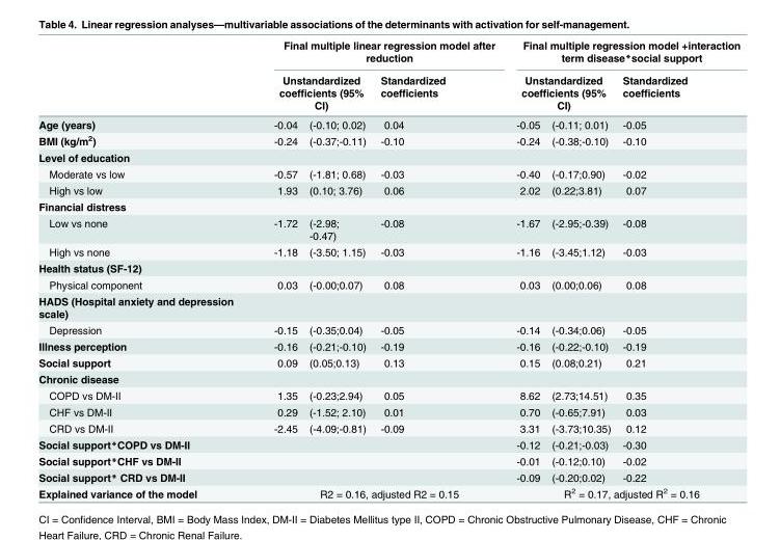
<table><thead><tr><td rowspan="3">Age (years)</td><td colspan="3">Final multiple linear regression model after reduction</td><td colspan="3">Final multiple regression model +interaction term disease*social support</td></tr><tr><td colspan="2">Unstandardized coefficients (95% CI)</td><td rowspan="2">Standardized coefficients 0.04</td><td colspan="2">Unstandardized coefficients (95% CI)</td><td rowspan="2">Standardized coefficients -0.05</td></tr><tr><td>-0.04</td><td>(-0.10; 0.02)</td><td>-0.05</td><td>(-0.11; 0.01)</td></tr></thead><tbody><tr><td>BMI (kg/m<sup>2</sup>)</td><td>-0.24</td><td>(-0.37;-0.11)</td><td>-0.10</td><td>-0.24</td><td>(-0.38;-0.10)</td><td>-0.10</td></tr><tr><td colspan="7">Level of education</td></tr><tr><td>Moderate vs low</td><td>-0.57</td><td>(-1.81; 0.68)</td><td>-0.03</td><td>-0.40</td><td>(-0.17;0.90)</td><td>-0.02</td></tr><tr><td>High vs low</td><td>1.93</td><td>(0.10; 3.76)</td><td>0.06</td><td>2.02</td><td>(0.22;3.81)</td><td>0.07</td></tr><tr><td colspan="7">Financial distress</td></tr><tr><td>Low vs none</td><td>-1.72</td><td>(-2.98; -0.47)</td><td>-0.08</td><td>-1.67</td><td>(-2.95;-0.39)</td><td>-0.08</td></tr><tr><td>High vs none</td><td>-1.18</td><td>(-3.50; 1.15)</td><td>-0.03</td><td>-1.16</td><td>(-3.45;1.12)</td><td>-0.03</td></tr><tr><td colspan="7">Health status (SF-12)</td></tr><tr><td>Physical component</td><td>0.03</td><td>(-0.00;0.07)</td><td>0.08</td><td>0.03</td><td>(0.00;0.06)</td><td>0.08</td></tr><tr><td colspan="7">HADS (Hospital anxiety and depression scale)</td></tr><tr><td>Depression</td><td>-0.15</td><td>(-0.35;0.04)</td><td>-0.05</td><td>-0.14</td><td>(-0.34;0.06)</td><td>-0.05</td></tr><tr><td>Illness perception</td><td>-0.16</td><td>(-0.21;-0.10)</td><td>-0.19</td><td>-0.16</td><td>(-0.22;-0.10)</td><td>-0.19</td></tr><tr><td>Social support</td><td>0.09</td><td>(0.05;0.13)</td><td>0.13</td><td>0.15</td><td>(0.08;0.21)</td><td>0.21</td></tr><tr><td colspan="7">Chronic disease</td></tr><tr><td>COPD vs DM-II</td><td>1.35</td><td>(-0.23;2.94)</td><td>0.05</td><td>8.62</td><td>(2.73;14.51)</td><td>0.35</td></tr><tr><td>CHF vs DM-II</td><td>0.29</td><td>(-1.52; 2.10)</td><td>0.01</td><td>0.70</td><td>(-0.65;7.91)</td><td>0.03</td></tr><tr><td>CRD vs DM-II</td><td>-2.45</td><td>(-4.09;-0.81)</td><td>-0.09</td><td>3.31</td><td>(-3.73;10.35)</td><td>0.12</td></tr><tr><td>Social support*COPD vs DM-II</td><td></td><td></td><td></td><td>-0.12</td><td>(-0.21;-0.03)</td><td>-0.30</td></tr><tr><td>Social support*CHF vs DM-II</td><td></td><td></td><td></td><td>-0.01</td><td>(-0.12;0.10)</td><td>-0.02</td></tr><tr><td>Social support* CRD vs DM-II</td><td></td><td></td><td></td><td>-0.09</td><td>(-0.20;0.02)</td><td>-0.22</td></tr><tr><td>Explained variance of the model</td><td colspan="3">R2 = 0.16, adjusted R2 = 0.15</td><td colspan="3">R<sup>2</sup> = 0.17, adjusted R<sup>2</sup> = 0.16</td></tr></tbody></table>